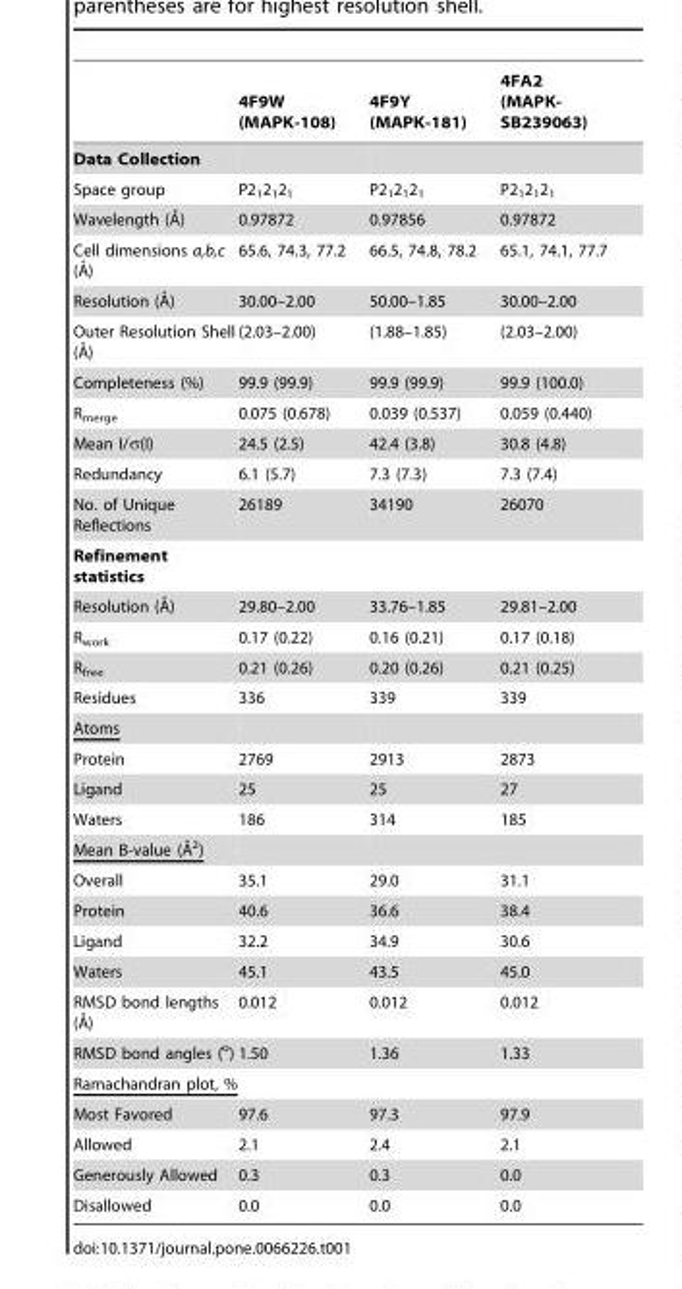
<table><thead><tr><td></td><td>4F9W (MAPK-108)</td><td>4F9Y (MAPK-181)</td><td>4FA2 (MAPK- SB239063)</td></tr></thead><tbody><tr><td colspan="4">Data Collection</td></tr><tr><td>Space group</td><td>P2<sub>1</sub>2<sub>1</sub>2<sub>1</sub></td><td>P2<sub>1</sub>2<sub>1</sub>2<sub>1</sub></td><td>P2<sub>1</sub>2<sub>1</sub>2<sub>1</sub></td></tr><tr><td>Wavelength (A˚)</td><td>0.97872</td><td>0.97856</td><td>0.97872</td></tr><tr><td>Cell dimensions a,b,c (A˚)</td><td>65.6, 74.3, 77.2</td><td>66.5, 74.8, 78.2</td><td>65.1, 74.1, 77.7</td></tr><tr><td>Resolution (A˚)</td><td>30.00–2.00</td><td>50.00–1.85</td><td>30.00–2.00</td></tr><tr><td>Outer Resolution Shell (A˚)</td><td>(2.03–2.00)</td><td>(1.88–1.85)</td><td>(2.03–2.00)</td></tr><tr><td>Completeness (%)</td><td>99.9 (99.9)</td><td>99.9 (99.9)</td><td>99.9 (100.0)</td></tr><tr><td>R<sub>merge</sub></td><td>0.075 (0.678)</td><td>0.039 (0.537)</td><td>0.059 (0.440)</td></tr><tr><td>Mean I/σ(I)</td><td>24.5 (2.5)</td><td>42.4 (3.8)</td><td>30.8 (4.8)</td></tr><tr><td>Redundancy</td><td>6.1 (5.7)</td><td>7.3 (7.3)</td><td>7.3 (7.4)</td></tr><tr><td>No. of Unique Reflections</td><td>26189</td><td>34190</td><td>26070</td></tr><tr><td colspan="4">Refinement statistics</td></tr><tr><td>Resolution (A˚)</td><td>29.80–2.00</td><td>33.76–1.85</td><td>29.81–2.00</td></tr><tr><td>R<sub>work</sub></td><td>0.17 (0.22)</td><td>0.16 (0.21)</td><td>0.17 (0.18)</td></tr><tr><td>R<sub>free</sub></td><td>0.21 (0.26)</td><td>0.20 (0.26)</td><td>0.21 (0.25)</td></tr><tr><td>Residues</td><td>336</td><td>339</td><td>339</td></tr><tr><td colspan="4">Atoms</td></tr><tr><td>Protein</td><td>2769</td><td>2913</td><td>2873</td></tr><tr><td>Ligand</td><td>25</td><td>25</td><td>27</td></tr><tr><td>Waters</td><td>186</td><td>314</td><td>185</td></tr><tr><td colspan="4">Mean B-value (A˚2)</td></tr><tr><td>Overall</td><td>35.1</td><td>29.0</td><td>31.1</td></tr><tr><td>Protein</td><td>40.6</td><td>36.6</td><td>38.4</td></tr><tr><td>Ligand</td><td>32.2</td><td>34.9</td><td>30.6</td></tr><tr><td>Waters</td><td>45.1</td><td>43.5</td><td>45.0</td></tr><tr><td>RMSD bond lengths (A˚)</td><td>0.012</td><td>0.012</td><td>0.012</td></tr><tr><td>RMSD bond angles (<sup>o</sup>)</td><td>1.50</td><td>1.36</td><td>1.33</td></tr><tr><td colspan="4">Ramachandran plot, %</td></tr><tr><td>Most Favored</td><td>97.6</td><td>97.3</td><td>97.9</td></tr><tr><td>Allowed</td><td>2.1</td><td>2.4</td><td>2.1</td></tr><tr><td>Generously Allowed</td><td>0.3</td><td>0.3</td><td>0.0</td></tr><tr><td>Disallowed</td><td>0.0</td><td>0.0</td><td>0.0</td></tr></tbody></table>